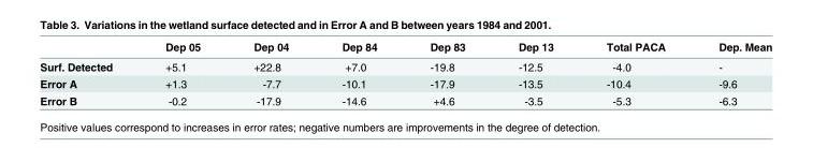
<table><thead><tr><td></td><td>Dep 05</td><td>Dep 04</td><td>Dep 84</td><td>Dep 83</td><td>Dep 13</td><td>Total PACA</td><td>Dep. Mean</td></tr></thead><tbody><tr><td>Surf. Detected</td><td>+5.1</td><td>+22.8</td><td>+7.0</td><td>-19.8</td><td>-12.5</td><td>-4.0</td><td>-</td></tr><tr><td>Error A</td><td>+1.3</td><td>-7.7</td><td>-10.1</td><td>-17.9</td><td>-13.5</td><td>-10.4</td><td>-9.6</td></tr><tr><td>Error B</td><td>-0.2</td><td>-17.9</td><td>-14.6</td><td>+4.6</td><td>-3.5</td><td>-5.3</td><td>-6.3</td></tr></tbody></table>